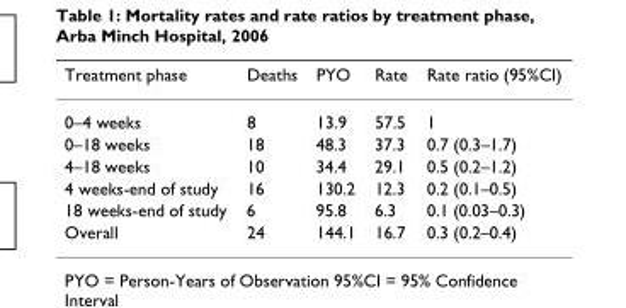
<table><thead><tr><td>Treatment phase</td><td>Deaths</td><td>PYO</td><td>Rate</td><td>Rate ratio (95%CI)</td></tr></thead><tbody><tr><td>0–4 weeks</td><td>8</td><td>13.9</td><td>57.5</td><td>1</td></tr><tr><td>0–18 weeks</td><td>18</td><td>48.3</td><td>37.3</td><td>0.7 (0.3–1.7)</td></tr><tr><td>4–18 weeks</td><td>10</td><td>34.4</td><td>29.1</td><td>0.5 (0.2–1.2)</td></tr><tr><td>4 weeks-end of study</td><td>16</td><td>130.2</td><td>12.3</td><td>0.2 (0.1–0.5)</td></tr><tr><td>18 weeks-end of study</td><td>6</td><td>95.8</td><td>6.3</td><td>0.1 (0.03–0.3)</td></tr><tr><td>Overall</td><td>24</td><td>144.1</td><td>16.7</td><td>0.3 (0.2–0.4)</td></tr></tbody></table>